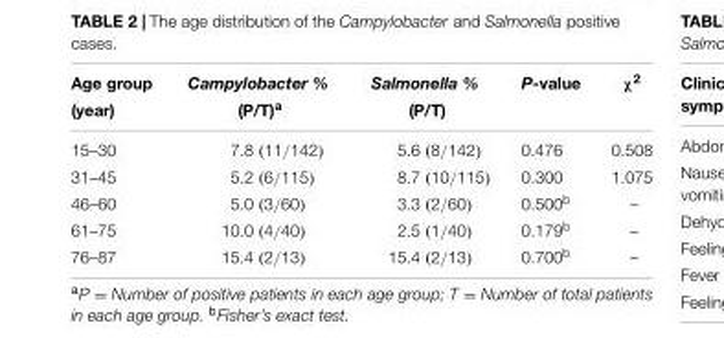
<table><thead><tr><td rowspan="2">Age group (year)</td><td rowspan="2">Campylobacter % (P/T)<sup>a</sup></td><td rowspan="2">Salmonella % (P/T)</td><td rowspan="2">P-value</td><td rowspan="2">χ<sup>2</sup></td></tr><tr></tr></thead><tbody><tr><td>15–30</td><td>7.8 (11/142)</td><td>5.6 (8/142)</td><td>0.476</td><td>0.508</td></tr><tr><td>31–45</td><td>5.2 (6/115)</td><td>8.7 (10/115)</td><td>0.300</td><td>1.075</td></tr><tr><td>46–60</td><td>5.0 (3/60)</td><td>3.3 (2/60)</td><td>0.500<sup>b</sup></td><td>–</td></tr><tr><td>61–75</td><td>10.0 (4/40)</td><td>2.5 (1/40)</td><td>0.179<sup>b</sup></td><td>–</td></tr><tr><td>76–87</td><td>15.4 (2/13)</td><td>15.4 (2/13)</td><td>0.700<sup>b</sup></td><td>–</td></tr></tbody></table>